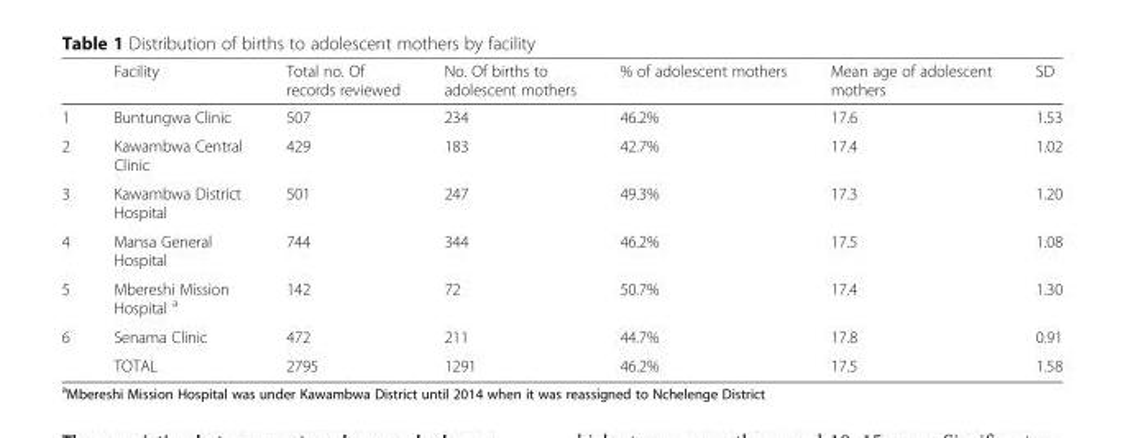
<table><thead><tr><td></td><td>Facility</td><td>Total no. Of records reviewed</td><td>No. Of births to adolescent mothers</td><td>% of adolescent mothers</td><td>Mean age of adolescent mothers</td><td>SD</td></tr></thead><tbody><tr><td>1</td><td>Buntungwa Clinic</td><td>507</td><td>234</td><td>46.2%</td><td>17.6</td><td>1.53</td></tr><tr><td>2</td><td>Kawambwa Central Clinic</td><td>429</td><td>183</td><td>42.7%</td><td>17.4</td><td>1.02</td></tr><tr><td>3</td><td>Kawambwa District Hospital</td><td>501</td><td>247</td><td>49.3%</td><td>17.3</td><td>1.20</td></tr><tr><td>4</td><td>Mansa General Hospital</td><td>744</td><td>344</td><td>46.2%</td><td>17.5</td><td>1.08</td></tr><tr><td>5</td><td>Mbereshi Mission Hospital <sup>a</sup></td><td>142</td><td>72</td><td>50.7%</td><td>17.4</td><td>1.30</td></tr><tr><td rowspan="2">6</td><td>Senama Clinic</td><td>472</td><td>211</td><td>44.7%</td><td>17.8</td><td>0.91</td></tr><tr><td>TOTAL</td><td>2795</td><td>1291</td><td>46.2%</td><td>17.5</td><td>1.58</td></tr></tbody></table>